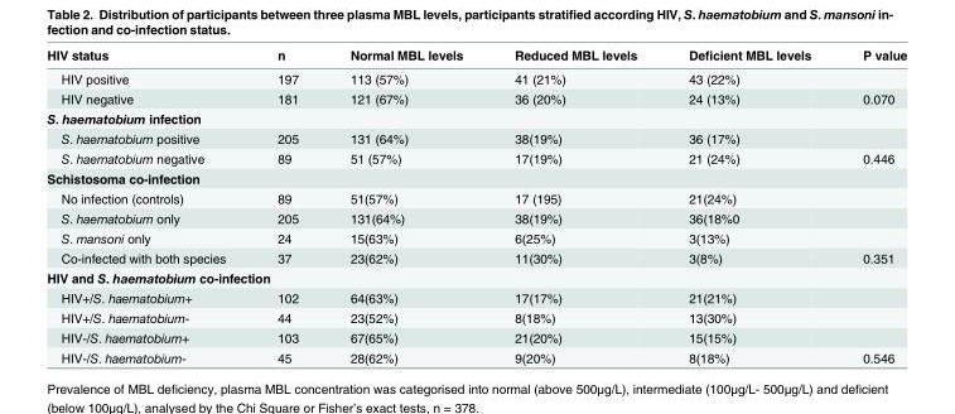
<table><thead><tr><td>HIV status</td><td>n</td><td>Normal MBL levels</td><td>Reduced MBL levels</td><td>Deficient MBL levels</td><td>P value</td></tr></thead><tbody><tr><td>HIV positive</td><td>197</td><td>113 (57%)</td><td>41 (21%)</td><td>43 (22%)</td><td></td></tr><tr><td>HIV negative</td><td>181</td><td>121 (67%)</td><td>36 (20%)</td><td>24 (13%)</td><td>0.070</td></tr><tr><td colspan="6">S. haematobium infection</td></tr><tr><td>S. haematobium positive</td><td>205</td><td>131 (64%)</td><td>38(19%)</td><td>36 (17%)</td><td></td></tr><tr><td>S. haematobium negative</td><td>89</td><td>51 (57%)</td><td>17(19%)</td><td>21 (24%)</td><td>0.446</td></tr><tr><td colspan="6">Schistosoma co-infection</td></tr><tr><td>No infection (controls)</td><td>89</td><td>51(57%)</td><td>17 (195)</td><td>21(24%)</td><td></td></tr><tr><td>S. haematobium only</td><td>205</td><td>131(64%)</td><td>38(19%)</td><td>36(18%0</td><td></td></tr><tr><td>S. mansoni only</td><td>24</td><td>15(63%)</td><td>6(25%)</td><td>3(13%)</td><td></td></tr><tr><td>Co-infected with both species</td><td>37</td><td>23(62%)</td><td>11(30%)</td><td>3(8%)</td><td>0.351</td></tr><tr><td colspan="6">HIV and S. haematobium co-infection</td></tr><tr><td>HIV+/S. haematobium+</td><td>102</td><td>64(63%)</td><td>17(17%)</td><td>21(21%)</td><td></td></tr><tr><td>HIV+/S. haematobium-</td><td>44</td><td>23(52%)</td><td>8(18%)</td><td>13(30%)</td><td></td></tr><tr><td>HIV-/S. haematobium+</td><td>103</td><td>67(65%)</td><td>21(20%)</td><td>15(15%)</td><td></td></tr><tr><td>HIV-/S. haematobium-</td><td>45</td><td>28(62%)</td><td>9(20%)</td><td>8(18%)</td><td>0.546</td></tr></tbody></table>